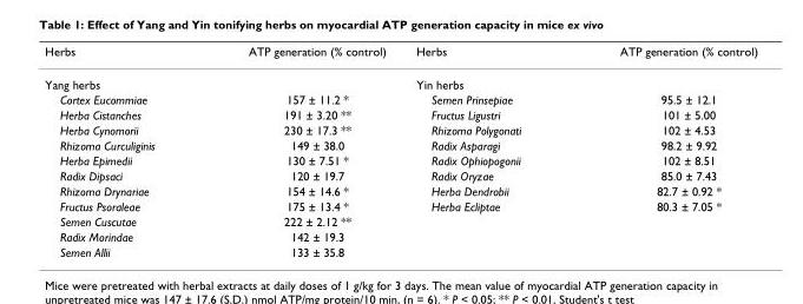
<table><thead><tr><td>Herbs</td><td>ATP generation (% control)</td><td>Herbs</td><td>ATP generation (% control)</td></tr></thead><tbody><tr><td>Yang herbs</td><td></td><td>Yin herbs</td><td></td></tr><tr><td>Cortex Eucommiae</td><td>157 ± 11.2 *</td><td>Semen Prinsepiae</td><td>95.5 ± 12.1</td></tr><tr><td>Herba Cistanches</td><td>191 ± 3.20 **</td><td>Fructus Ligustri</td><td>101 ± 5.00</td></tr><tr><td>Herba Cynomorii</td><td>230 ± 17.3 **</td><td>Rhizoma Polygonati</td><td>102 ± 4.53</td></tr><tr><td>Rhizoma Curculiginis</td><td>149 ± 38.0</td><td>Radix Asparagi</td><td>98.2 ± 9.92</td></tr><tr><td>Herba Epimedii</td><td>130 ± 7.51 *</td><td>Radix Ophiopogonii</td><td>102 ± 8.51</td></tr><tr><td>Radix Dipsaci</td><td>120 ± 19.7</td><td>Radix Oryzae</td><td>85.0 ± 7.43</td></tr><tr><td>Rhizoma Drynariae</td><td>154 ± 14.6 *</td><td>Herba Dendrobii</td><td>82.7 ± 0.92 *</td></tr><tr><td>Fructus Psoraleae</td><td>175 ± 13.4 *</td><td>Herba Ecliptae</td><td>80.3 ± 7.05 *</td></tr><tr><td>Semen Cuscutae</td><td>222 ± 2.12 **</td><td></td><td></td></tr><tr><td>Radix Morindae</td><td>142 ± 19.3</td><td></td><td></td></tr><tr><td>Semen Allii</td><td>133 ± 35.8</td><td></td><td></td></tr></tbody></table>